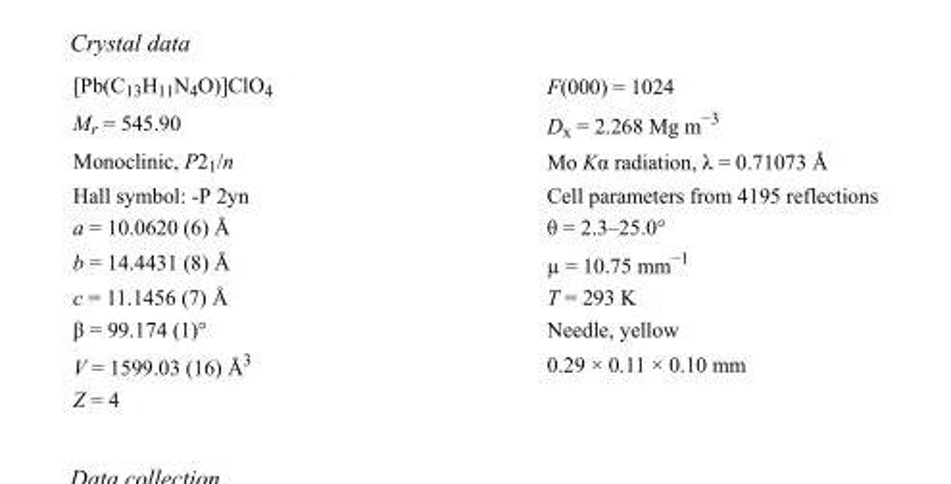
<table><tbody><tr><td>[Pb(C<sub>13</sub>H<sub>11</sub>N<sub>4</sub>O)]ClO<sub>4</sub></td><td>F(000) = 1024</td></tr><tr><td>M<sub>r</sub> = 545.90</td><td>D<sub>x</sub> = 2.268 Mg m<sup>−3</sup></td></tr><tr><td>Monoclinic, P2<sub>1</sub>/n</td><td>Mo Kα radiation, λ = 0.71073 Å</td></tr><tr><td>Hall symbol: -P 2yn</td><td>Cell parameters from 4195 reflections</td></tr><tr><td>a = 10.0620 (6) Å</td><td>θ = 2.3–25.0°</td></tr><tr><td>b = 14.4431 (8) Å</td><td>µ = 10.75 mm<sup>−1</sup></td></tr><tr><td>c = 11.1456 (7) Å</td><td>T = 293 K</td></tr><tr><td>β = 99.174 (1)°</td><td>Needle, yellow</td></tr><tr><td>V = 1599.03 (16) Å<sup>3</sup></td><td>0.29 × 0.11 × 0.10 mm</td></tr><tr><td>Z = 4</td><td></td></tr></tbody></table>